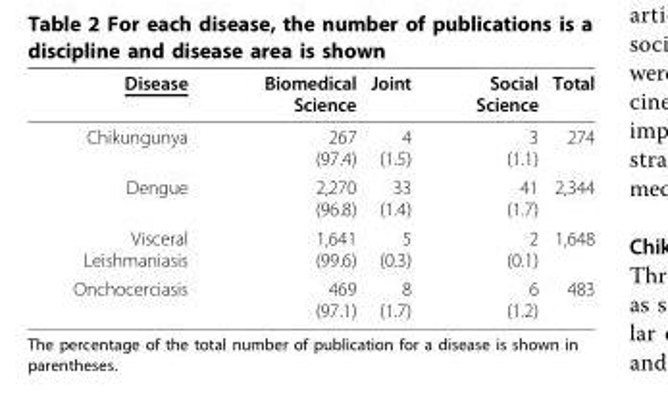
<table><thead><tr><td>Disease</td><td>Biomedical Science</td><td>Joint</td><td>Social Science</td><td>Total</td></tr></thead><tbody><tr><td>Chikungunya</td><td>267 (97.4)</td><td>4 (1.5)</td><td>3 (1.1)</td><td>274</td></tr><tr><td>Dengue</td><td>2,270 (96.8)</td><td>33 (1.4)</td><td>41 (1.7)</td><td>2,344</td></tr><tr><td>Visceral Leishmaniasis</td><td>1,641 (99.6)</td><td>5 (0.3)</td><td>2 (0.1)</td><td>1,648</td></tr><tr><td>Onchocerciasis</td><td>469 (97.1)</td><td>8 (1.7)</td><td>6 (1.2)</td><td>483</td></tr></tbody></table>